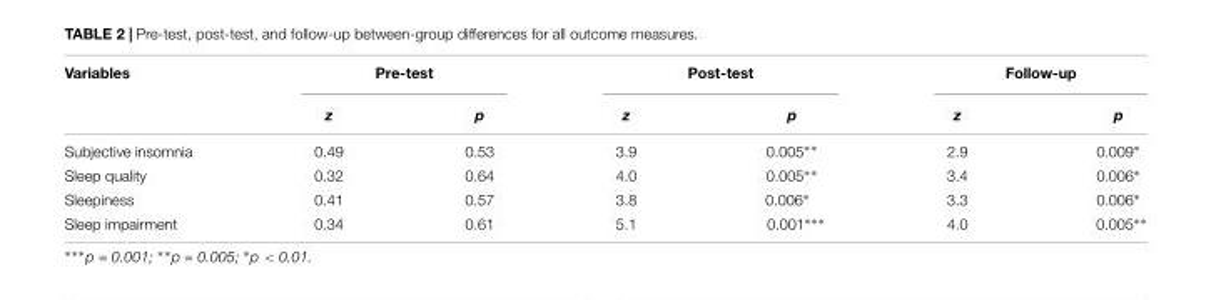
<table><thead><tr><td rowspan="2">Variables</td><td colspan="2">Pre-test</td><td colspan="2">Post-test</td><td colspan="2">Follow-up</td></tr><tr><td>z</td><td>p</td><td>z</td><td>p</td><td>z</td><td>p</td></tr></thead><tbody><tr><td>Subjective insomnia</td><td>0.49</td><td>0.53</td><td>3.9</td><td>0.005∗∗</td><td>2.9</td><td>0.009∗</td></tr><tr><td>Sleep quality</td><td>0.32</td><td>0.64</td><td>4.0</td><td>0.005∗∗</td><td>3.4</td><td>0.006∗</td></tr><tr><td>Sleepiness</td><td>0.41</td><td>0.57</td><td>3.8</td><td>0.006∗</td><td>3.3</td><td>0.006∗</td></tr><tr><td>Sleep impairment</td><td>0.34</td><td>0.61</td><td>5.1</td><td>0.001∗∗∗</td><td>4.0</td><td>0.005∗∗</td></tr></tbody></table>